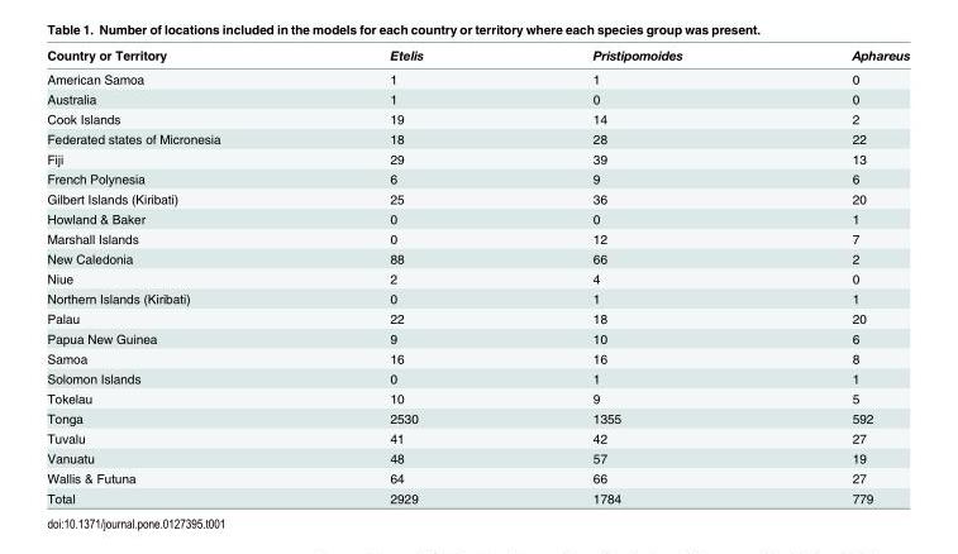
<table><thead><tr><td>Country or Territory</td><td>Etelis</td><td>Pristipomoides</td><td>Aphareus</td></tr></thead><tbody><tr><td>American Samoa</td><td>1</td><td>1</td><td>0</td></tr><tr><td>Australia</td><td>1</td><td>0</td><td>0</td></tr><tr><td>Cook Islands</td><td>19</td><td>14</td><td>2</td></tr><tr><td>Federated states of Micronesia</td><td>18</td><td>28</td><td>22</td></tr><tr><td>Fiji</td><td>29</td><td>39</td><td>13</td></tr><tr><td>French Polynesia</td><td>6</td><td>9</td><td>6</td></tr><tr><td>Gilbert Islands (Kiribati)</td><td>25</td><td>36</td><td>20</td></tr><tr><td>Howland &amp; Baker</td><td>0</td><td>0</td><td>1</td></tr><tr><td>Marshall Islands</td><td>0</td><td>12</td><td>7</td></tr><tr><td>New Caledonia</td><td>88</td><td>66</td><td>2</td></tr><tr><td>Niue</td><td>2</td><td>4</td><td>0</td></tr><tr><td>Northern Islands (Kiribati)</td><td>0</td><td>1</td><td>1</td></tr><tr><td>Palau</td><td>22</td><td>18</td><td>20</td></tr><tr><td>Papua New Guinea</td><td>9</td><td>10</td><td>6</td></tr><tr><td>Samoa</td><td>16</td><td>16</td><td>8</td></tr><tr><td>Solomon Islands</td><td>0</td><td>1</td><td>1</td></tr><tr><td>Tokelau</td><td>10</td><td>9</td><td>5</td></tr><tr><td>Tonga</td><td>2530</td><td>1355</td><td>592</td></tr><tr><td>Tuvalu</td><td>41</td><td>42</td><td>27</td></tr><tr><td>Vanuatu</td><td>48</td><td>57</td><td>19</td></tr><tr><td>Wallis &amp; Futuna</td><td>64</td><td>66</td><td>27</td></tr><tr><td>Total</td><td>2929</td><td>1784</td><td>779</td></tr></tbody></table>